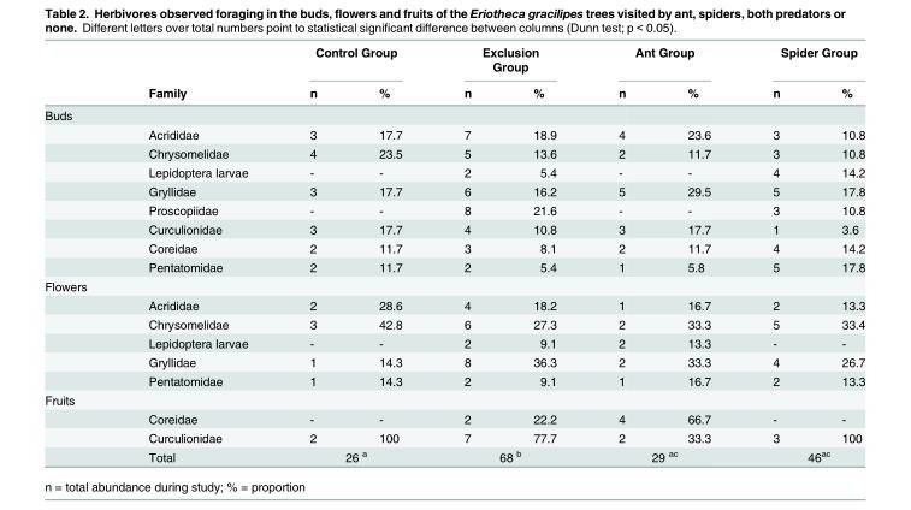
<table><thead><tr><td rowspan="2"></td><td rowspan="2">Family</td><td colspan="2">Control Group</td><td colspan="2">Exclusion Group</td><td colspan="2">Ant Group</td><td colspan="2">Spider Group</td></tr><tr><td>n</td><td>%</td><td>n</td><td>%</td><td>n</td><td>%</td><td>n</td><td>%</td></tr></thead><tbody><tr><td colspan="10">Buds</td></tr><tr><td></td><td>Acrididae</td><td>3</td><td>17.7</td><td>7</td><td>18.9</td><td>4</td><td>23.6</td><td>3</td><td>10.8</td></tr><tr><td></td><td>Chrysomelidae</td><td>4</td><td>23.5</td><td>5</td><td>13.6</td><td>2</td><td>11.7</td><td>3</td><td>10.8</td></tr><tr><td></td><td>Lepidoptera larvae</td><td>-</td><td>-</td><td>2</td><td>5.4</td><td>-</td><td>-</td><td>4</td><td>14.2</td></tr><tr><td></td><td>Gryllidae</td><td>3</td><td>17.7</td><td>6</td><td>16.2</td><td>5</td><td>29.5</td><td>5</td><td>17.8</td></tr><tr><td></td><td>Proscopiidae</td><td>-</td><td>-</td><td>8</td><td>21.6</td><td>-</td><td>-</td><td>3</td><td>10.8</td></tr><tr><td></td><td>Curculionidae</td><td>3</td><td>17.7</td><td>4</td><td>10.8</td><td>3</td><td>17.7</td><td>1</td><td>3.6</td></tr><tr><td></td><td>Coreidae</td><td>2</td><td>11.7</td><td>3</td><td>8.1</td><td>2</td><td>11.7</td><td>4</td><td>14.2</td></tr><tr><td></td><td>Pentatomidae</td><td>2</td><td>11.7</td><td>2</td><td>5.4</td><td>1</td><td>5.8</td><td>5</td><td>17.8</td></tr><tr><td colspan="10">Flowers</td></tr><tr><td></td><td>Acrididae</td><td>2</td><td>28.6</td><td>4</td><td>18.2</td><td>1</td><td>16.7</td><td>2</td><td>13.3</td></tr><tr><td></td><td>Chrysomelidae</td><td>3</td><td>42.8</td><td>6</td><td>27.3</td><td>2</td><td>33.3</td><td>5</td><td>33.4</td></tr><tr><td></td><td>Lepidoptera larvae</td><td>-</td><td>-</td><td>2</td><td>9.1</td><td>2</td><td>13.3</td><td>-</td><td>-</td></tr><tr><td></td><td>Gryllidae</td><td>1</td><td>14.3</td><td>8</td><td>36.3</td><td>2</td><td>33.3</td><td>4</td><td>26.7</td></tr><tr><td></td><td>Pentatomidae</td><td>1</td><td>14.3</td><td>2</td><td>9.1</td><td>1</td><td>16.7</td><td>2</td><td>13.3</td></tr><tr><td colspan="10">Fruits</td></tr><tr><td></td><td>Coreidae</td><td>-</td><td>-</td><td>2</td><td>22.2</td><td>4</td><td>66.7</td><td>-</td><td>-</td></tr><tr><td></td><td>Curculionidae</td><td>2</td><td>100</td><td>7</td><td>77.7</td><td>2</td><td>33.3</td><td>3</td><td>100</td></tr><tr><td></td><td>Total</td><td colspan="2">26 <sup>a</sup></td><td colspan="2">68 <sup>b</sup></td><td colspan="2">29 <sup>ac</sup></td><td colspan="2">46<sup>ac</sup></td></tr></tbody></table>